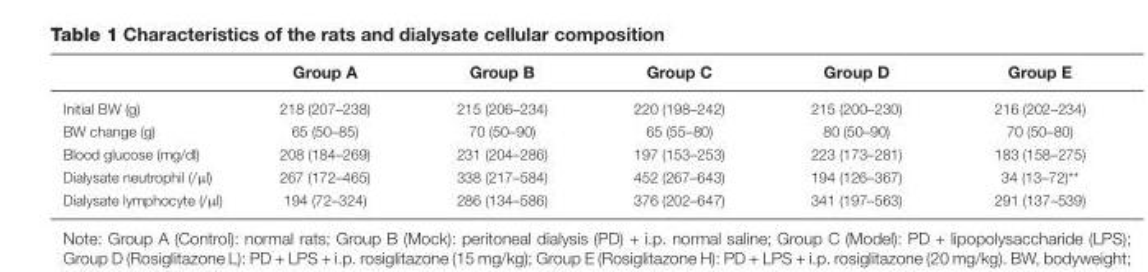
<table><thead><tr><td></td><td>Group A</td><td>Group B</td><td>Group C</td><td>Group D</td><td>Group E</td></tr></thead><tbody><tr><td>Initial BW (g)</td><td>218 (207–238)</td><td>215 (206–234)</td><td>220 (198–242)</td><td>215 (200–230)</td><td>216 (202–234)</td></tr><tr><td>BW change (g)</td><td>65 (50–85)</td><td>70 (50–90)</td><td>65 (55–80)</td><td>80 (50–90)</td><td>70 (50–80)</td></tr><tr><td>Blood glucose (mg/dl)</td><td>208 (184–269)</td><td>231 (204–286)</td><td>197 (153–253)</td><td>223 (173–281)</td><td>183 (158–275)</td></tr><tr><td>Dialysate neutrophil (/μl)</td><td>267 (172–465)</td><td>338 (217–584)</td><td>452 (267–643)</td><td>194 (126–367)</td><td>34 (13–72)**</td></tr><tr><td>Dialysate lymphocyte (/μl)</td><td>194 (72–324)</td><td>286 (134–586)</td><td>376 (202–647)</td><td>341 (197–563)</td><td>291 (137–539)</td></tr></tbody></table>